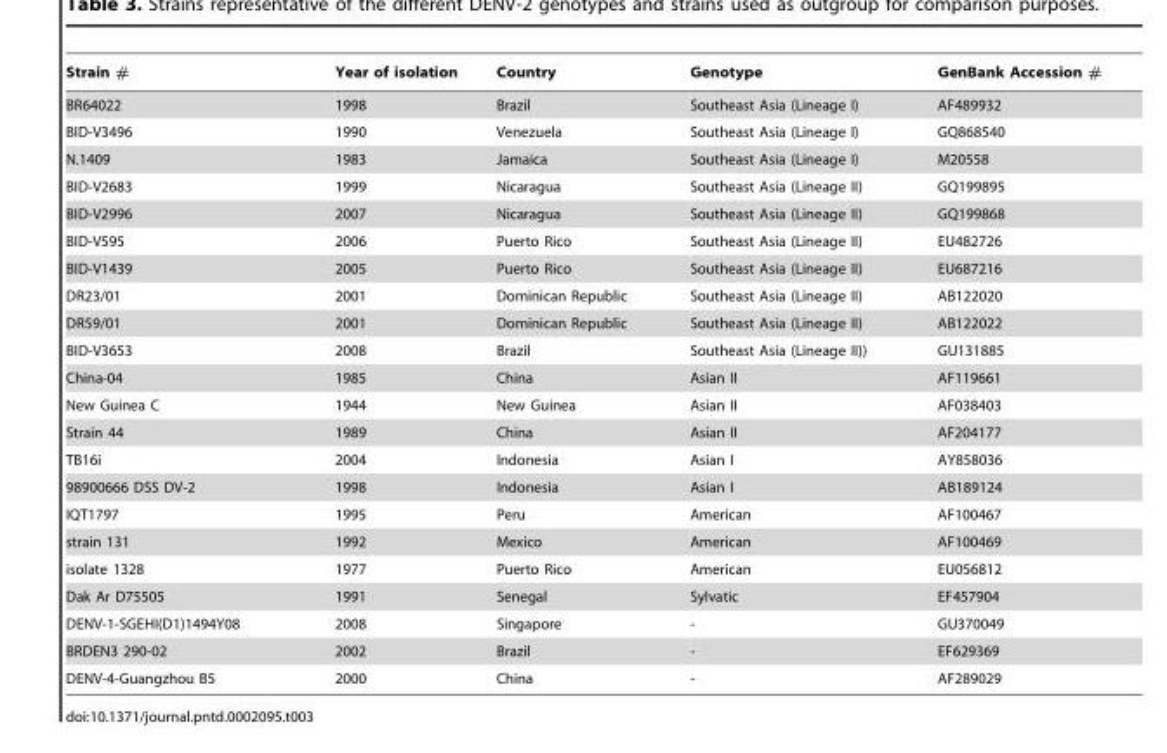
<table><thead><tr><td>Strain #</td><td>Year of isolation</td><td>Country</td><td>Genotype</td><td>GenBank Accession #</td></tr></thead><tbody><tr><td>BR64022</td><td>1998</td><td>Brazil</td><td>Southeast Asia (Lineage I)</td><td>AF489932</td></tr><tr><td>BID-V3496</td><td>1990</td><td>Venezuela</td><td>Southeast Asia (Lineage I)</td><td>GQ868540</td></tr><tr><td>N.1409</td><td>1983</td><td>Jamaica</td><td>Southeast Asia (Lineage I)</td><td>M20558</td></tr><tr><td>BID-V2683</td><td>1999</td><td>Nicaragua</td><td>Southeast Asia (Lineage II)</td><td>GQ199895</td></tr><tr><td>BID-V2996</td><td>2007</td><td>Nicaragua</td><td>Southeast Asia (Lineage II)</td><td>GQ199868</td></tr><tr><td>BID-V595</td><td>2006</td><td>Puerto Rico</td><td>Southeast Asia (Lineage II)</td><td>EU482726</td></tr><tr><td>BID-V1439</td><td>2005</td><td>Puerto Rico</td><td>Southeast Asia (Lineage II)</td><td>EU687216</td></tr><tr><td>DR23/01</td><td>2001</td><td>Dominican Republic</td><td>Southeast Asia (Lineage II)</td><td>AB122020</td></tr><tr><td>DR59/01</td><td>2001</td><td>Dominican Republic</td><td>Southeast Asia (Lineage II)</td><td>AB122022</td></tr><tr><td>BID-V3653</td><td>2008</td><td>Brazil</td><td>Southeast Asia (Lineage II))</td><td>GU131885</td></tr><tr><td>China-04</td><td>1985</td><td>China</td><td>Asian II</td><td>AF119661</td></tr><tr><td>New Guinea C</td><td>1944</td><td>New Guinea</td><td>Asian II</td><td>AF038403</td></tr><tr><td>Strain 44</td><td>1989</td><td>China</td><td>Asian II</td><td>AF204177</td></tr><tr><td>TB16i</td><td>2004</td><td>Indonesia</td><td>Asian I</td><td>AY858036</td></tr><tr><td>98900666 DSS DV-2</td><td>1998</td><td>Indonesia</td><td>Asian I</td><td>AB189124</td></tr><tr><td>IQT1797</td><td>1995</td><td>Peru</td><td>American</td><td>AF100467</td></tr><tr><td>strain 131</td><td>1992</td><td>Mexico</td><td>American</td><td>AF100469</td></tr><tr><td>isolate 1328</td><td>1977</td><td>Puerto Rico</td><td>American</td><td>EU056812</td></tr><tr><td>Dak Ar D75505</td><td>1991</td><td>Senegal</td><td>Sylvatic</td><td>EF457904</td></tr><tr><td>DENV-1-SGEHI(D1)1494Y08</td><td>2008</td><td>Singapore</td><td>-</td><td>GU370049</td></tr><tr><td>BRDEN3 290-02</td><td>2002</td><td>Brazil</td><td>-</td><td>EF629369</td></tr><tr><td>DENV-4-Guangzhou B5</td><td>2000</td><td>China</td><td>-</td><td>AF289029</td></tr></tbody></table>